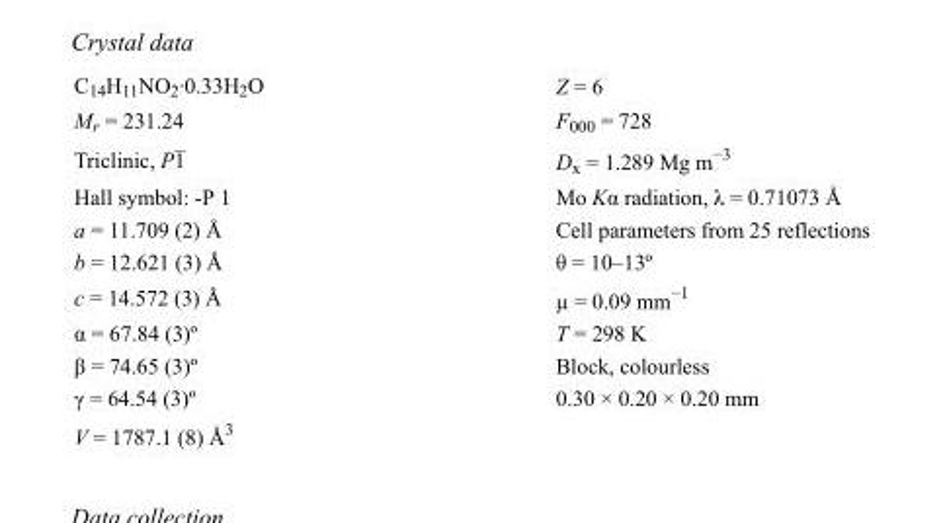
<table><tbody><tr><td>C<sub>14</sub>H<sub>11</sub>NO<sub>2</sub>·0.33H<sub>2</sub>O</td><td>Z = 6</td></tr><tr><td>M<sub>r</sub> = 231.24</td><td>F000 = 728</td></tr><tr><td>Triclinic, P1</td><td>D<sub>x</sub> = 1.289 Mg m<sup>−3</sup></td></tr><tr><td>Hall symbol: -P 1</td><td>Mo Kα radiation, λ = 0.71073 Å</td></tr><tr><td>a = 11.709 (2) Å</td><td>Cell parameters from 25 reflections</td></tr><tr><td>b = 12.621 (3) Å</td><td>θ = 10–13º</td></tr><tr><td>c = 14.572 (3) Å</td><td>µ = 0.09 mm<sup>−1</sup></td></tr><tr><td>α = 67.84 (3)º</td><td>T = 298 K</td></tr><tr><td>β = 74.65 (3)º</td><td>Block, colourless</td></tr><tr><td>γ = 64.54 (3)º</td><td>0.30 × 0.20 × 0.20 mm</td></tr><tr><td>V = 1787.1 (8) Å<sup>3</sup></td><td></td></tr></tbody></table>